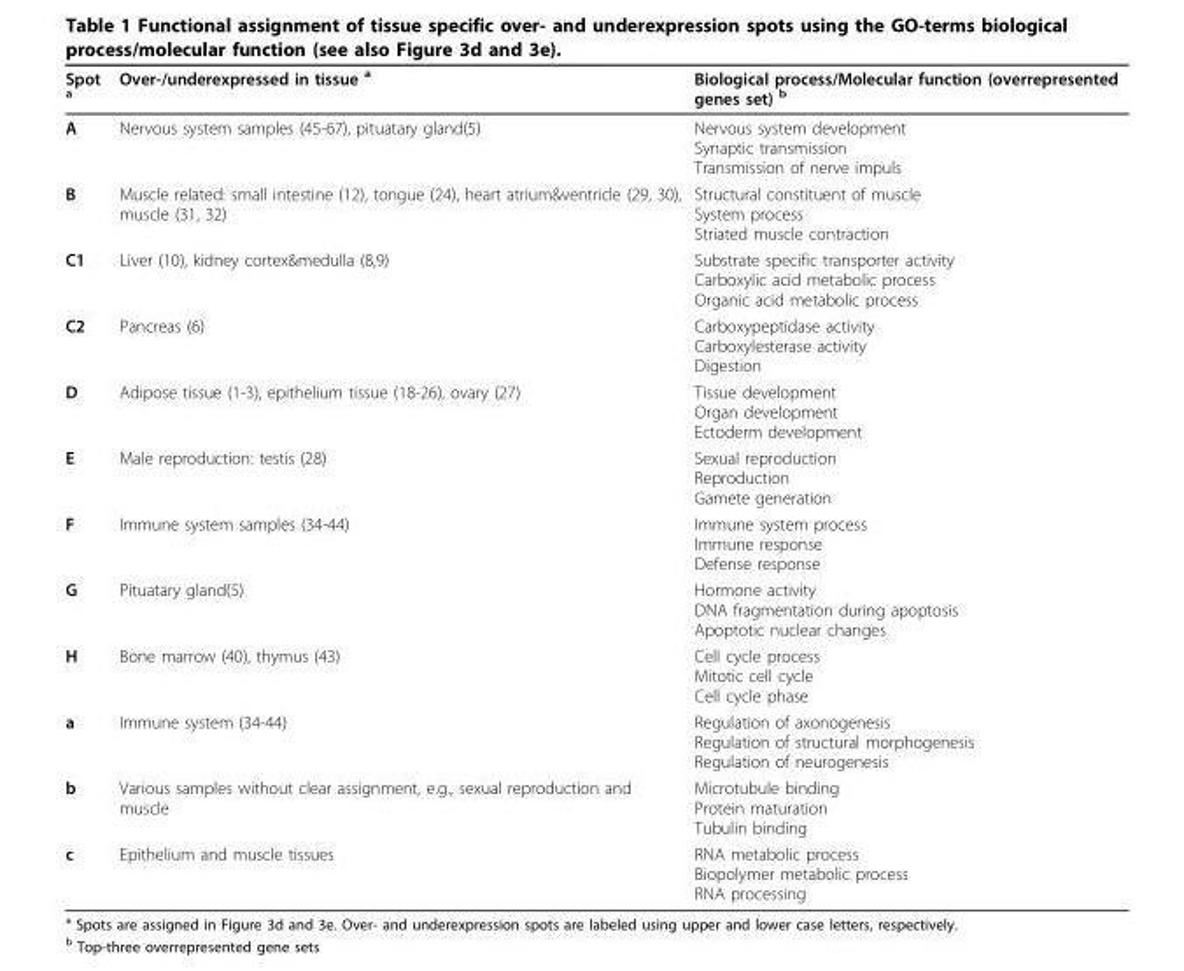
<table><thead><tr><td>Spot <sup>a</sup></td><td>Over-/underexpressed in tissue <sup>a</sup></td><td>Biological process/Molecular function (overrepresented genes set) <sup>b</sup></td></tr></thead><tbody><tr><td>A</td><td>Nervous system samples (45-67), pituatary gland(5)</td><td>Nervous system development Synaptic transmission Transmission of nerve impuls</td></tr><tr><td>B</td><td>Muscle related: small intestine (12), tongue (24), heart atrium&amp;ventricle (29, 30), muscle (31, 32)</td><td>Structural constituent of muscle System process Striated muscle contraction</td></tr><tr><td>C1</td><td>Liver (10), kidney cortex&amp;medulla (8,9)</td><td>Substrate specific transporter activity Carboxylic acid metabolic process Organic acid metabolic process</td></tr><tr><td>C2</td><td>Pancreas (6)</td><td>Carboxypeptidase activity Carboxylesterase activity Digestion</td></tr><tr><td>D</td><td>Adipose tissue (1-3), epithelium tissue (18-26), ovary (27)</td><td>Tissue development Organ development Ectoderm development</td></tr><tr><td>E</td><td>Male reproduction: testis (28)</td><td>Sexual reproduction Reproduction Gamete generation</td></tr><tr><td>F</td><td>Immune system samples (34-44)</td><td>Immune system process Immune response Defense response</td></tr><tr><td>G</td><td>Pituatary gland(5)</td><td>Hormone activity DNA fragmentation during apoptosis Apoptotic nuclear changes</td></tr><tr><td>H</td><td>Bone marrow (40), thymus (43)</td><td>Cell cycle process Mitotic cell cycle Cell cycle phase</td></tr><tr><td>a</td><td>Immune system (34-44)</td><td>Regulation of axonogenesis Regulation of structural morphogenesis Regulation of neurogenesis</td></tr><tr><td>b</td><td>Various samples without clear assignment, e.g., sexual reproduction and muscle</td><td>Microtubule binding Protein maturation Tubulin binding</td></tr><tr><td>c</td><td>Epithelium and muscle tissues</td><td>RNA metabolic process Biopolymer metabolic process RNA processing</td></tr></tbody></table>